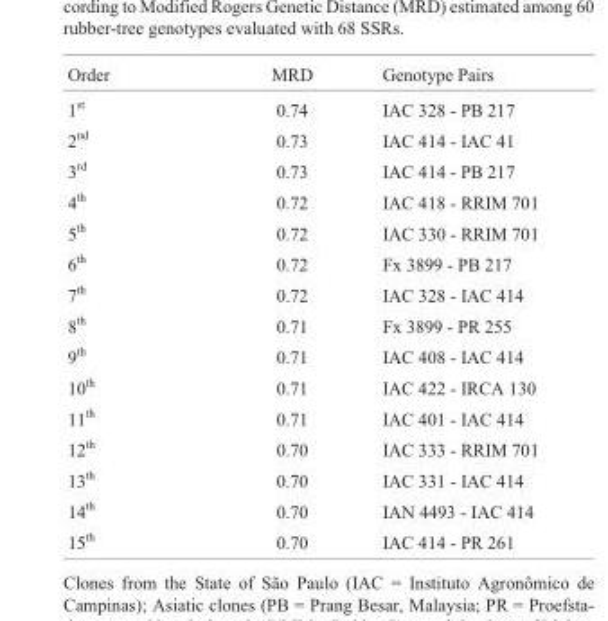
<table><thead><tr><td>Order</td><td>MRD</td><td>Genotype Pairs</td></tr></thead><tbody><tr><td>1<sup>st</sup></td><td>0.74</td><td>IAC 328 - PB 217</td></tr><tr><td>2<sup>nd</sup></td><td>0.73</td><td>IAC 414 - IAC 41</td></tr><tr><td>3<sup>rd</sup></td><td>0.73</td><td>IAC 414 - PB 217</td></tr><tr><td>4<sup>th</sup></td><td>0.72</td><td>IAC 418 - RRIM 701</td></tr><tr><td>5<sup>th</sup></td><td>0.72</td><td>IAC 330 - RRIM 701</td></tr><tr><td>6<sup>th</sup></td><td>0.72</td><td>Fx 3899 - PB 217</td></tr><tr><td>7<sup>th</sup></td><td>0.72</td><td>IAC 328 - IAC 414</td></tr><tr><td>8<sup>th</sup></td><td>0.71</td><td>Fx 3899 - PR 255</td></tr><tr><td>9<sup>th</sup></td><td>0.71</td><td>IAC 408 - IAC 414</td></tr><tr><td>10<sup>th</sup></td><td>0.71</td><td>IAC 422 - IRCA 130</td></tr><tr><td>11<sup>th</sup></td><td>0.71</td><td>IAC 401 - IAC 414</td></tr><tr><td>12<sup>th</sup></td><td>0.70</td><td>IAC 333 - RRIM 701</td></tr><tr><td>13<sup>th</sup></td><td>0.70</td><td>IAC 331 - IAC 414</td></tr><tr><td>14<sup>th</sup></td><td>0.70</td><td>IAN 4493 - IAC 414</td></tr><tr><td>15<sup>th</sup></td><td>0.70</td><td>IAC 414 - PR 261</td></tr></tbody></table>